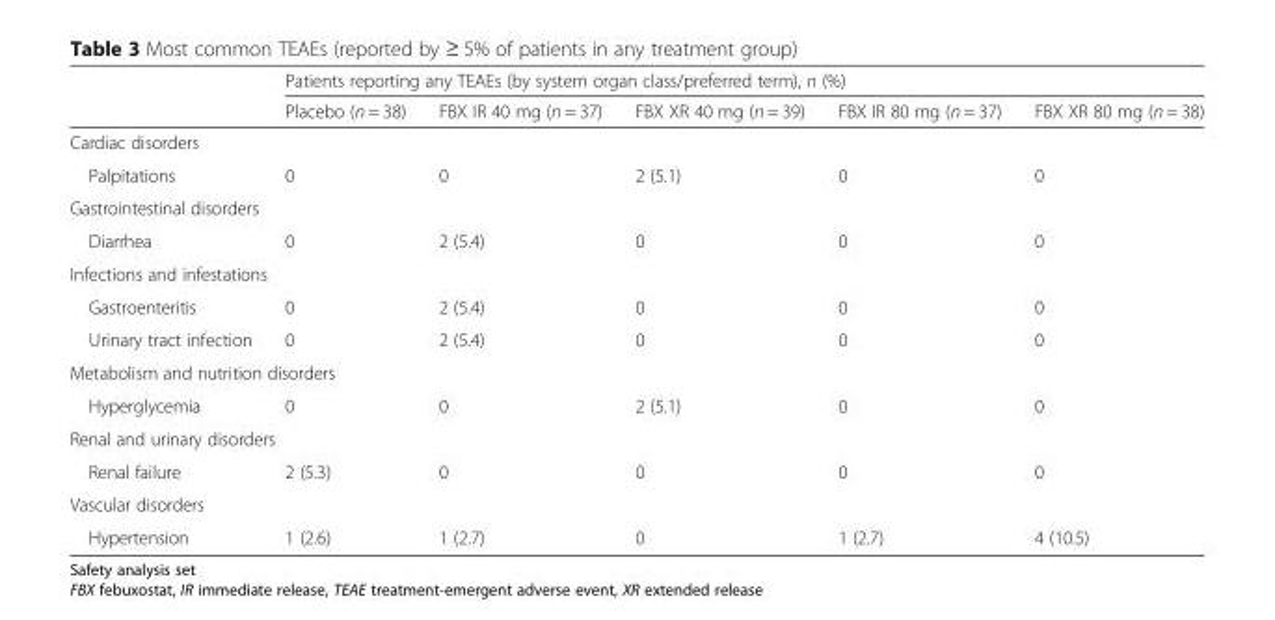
<table><thead><tr><td rowspan="2"></td><td colspan="5">Patients reporting any TEAEs (by system organ class/preferred term), n (%)</td></tr><tr><td>Placebo (n = 38)</td><td>FBX IR 40 mg (n = 37)</td><td>FBX XR 40 mg (n = 39)</td><td>FBX IR 80 mg (n = 37)</td><td>FBX XR 80 mg (n = 38)</td></tr></thead><tbody><tr><td colspan="6">Cardiac disorders</td></tr><tr><td>Palpitations</td><td>0</td><td>0</td><td>2 (5.1)</td><td>0</td><td>0</td></tr><tr><td colspan="6">Gastrointestinal disorders</td></tr><tr><td>Diarrhea</td><td>0</td><td>2 (5.4)</td><td>0</td><td>0</td><td>0</td></tr><tr><td colspan="6">Infections and infestations</td></tr><tr><td>Gastroenteritis</td><td>0</td><td>2 (5.4)</td><td>0</td><td>0</td><td>0</td></tr><tr><td>Urinary tract infection</td><td>0</td><td>2 (5.4)</td><td>0</td><td>0</td><td>0</td></tr><tr><td colspan="6">Metabolism and nutrition disorders</td></tr><tr><td>Hyperglycemia</td><td>0</td><td>0</td><td>2 (5.1)</td><td>0</td><td>0</td></tr><tr><td colspan="6">Renal and urinary disorders</td></tr><tr><td>Renal failure</td><td>2 (5.3)</td><td>0</td><td>0</td><td>0</td><td>0</td></tr><tr><td colspan="6">Vascular disorders</td></tr><tr><td>Hypertension</td><td>1 (2.6)</td><td>1 (2.7)</td><td>0</td><td>1 (2.7)</td><td>4 (10.5)</td></tr></tbody></table>